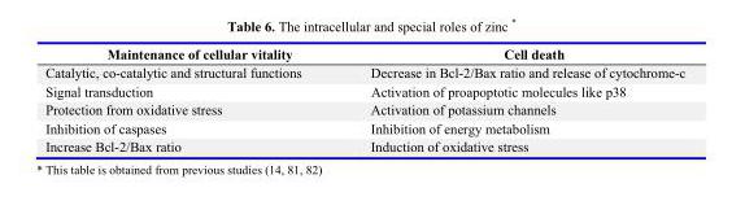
<table><thead><tr><td>Maintenance of cellular vitality</td><td>Cell death</td></tr></thead><tbody><tr><td>Catalytic, co-catalytic and structural functions</td><td>Decrease in Bcl-2/Bax ratio and release of cytochrome-c</td></tr><tr><td>Signal transduction</td><td>Activation of proapoptotic molecules like p38</td></tr><tr><td>Protection from oxidative stress</td><td>Activation of potassium channels</td></tr><tr><td>Inhibition of caspases</td><td>Inhibition of energy metabolism</td></tr><tr><td>Increase Bcl-2/Bax ratio</td><td>Induction of oxidative stress</td></tr></tbody></table>